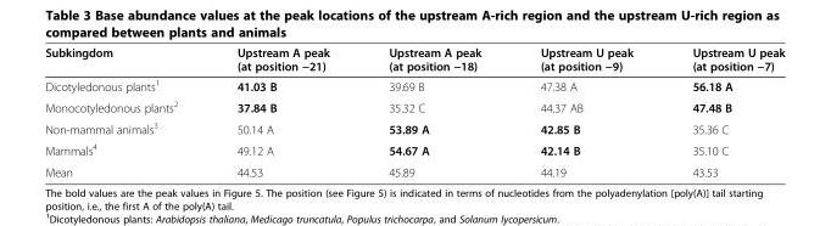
<table><thead><tr><td>Subkingdom</td><td>Upstream A peak (at position −21)</td><td>Upstream A peak (at position −18)</td><td>Upstream U peak (at position −9)</td><td>Upstream U peak (at position −7)</td></tr></thead><tbody><tr><td>Dicotyledonous plants<sup>1</sup></td><td>41.03 B</td><td>39.69 B</td><td>47.38 A</td><td>56.18 A</td></tr><tr><td>Monocotyledonous plants<sup>2</sup></td><td>37.84 B</td><td>35.32 C</td><td>44.37 AB</td><td>47.48 B</td></tr><tr><td>Non-mammal animals<sup>3</sup></td><td>50.14 A</td><td>53.89 A</td><td>42.85 B</td><td>35.36 C</td></tr><tr><td>Mammals<sup>4</sup></td><td>49.12 A</td><td>54.67 A</td><td>42.14 B</td><td>35.10 C</td></tr><tr><td>Mean</td><td>44.53</td><td>45.89</td><td>44.19</td><td>43.53</td></tr></tbody></table>